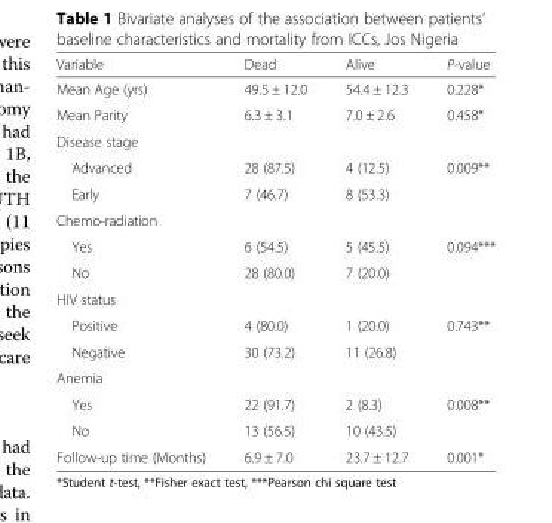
<table><thead><tr><td>Variable</td><td>Dead</td><td>Alive</td><td>P-value</td></tr></thead><tbody><tr><td>Mean Age (yrs)</td><td>49.5 ± 12.0</td><td>54.4 ± 12.3</td><td>0.228*</td></tr><tr><td>Mean Parity</td><td>6.3 ± 3.1</td><td>7.0 ± 2.6</td><td>0.458*</td></tr><tr><td colspan="4">Disease stage</td></tr><tr><td>Advanced</td><td>28 (87.5)</td><td>4 (12.5)</td><td rowspan="2">0.009**</td></tr><tr><td>Early</td><td>7 (46.7)</td><td>8 (53.3)</td></tr><tr><td colspan="4">Chemo-radiation</td></tr><tr><td>Yes</td><td>6 (54.5)</td><td>5 (45.5)</td><td rowspan="2">0.094***</td></tr><tr><td>No</td><td>28 (80.0)</td><td>7 (20.0)</td></tr><tr><td colspan="4">HIV status</td></tr><tr><td>Positive</td><td>4 (80.0)</td><td>1 (20.0)</td><td rowspan="2">0.743**</td></tr><tr><td>Negative</td><td>30 (73.2)</td><td>11 (26.8)</td></tr><tr><td colspan="4">Anemia</td></tr><tr><td>Yes</td><td>22 (91.7)</td><td>2 (8.3)</td><td rowspan="2">0.008**</td></tr><tr><td>No</td><td>13 (56.5)</td><td>10 (43.5)</td></tr><tr><td>Follow-up time (Months)</td><td>6.9 ± 7.0</td><td>23.7 ± 12.7</td><td>0.001*</td></tr></tbody></table>